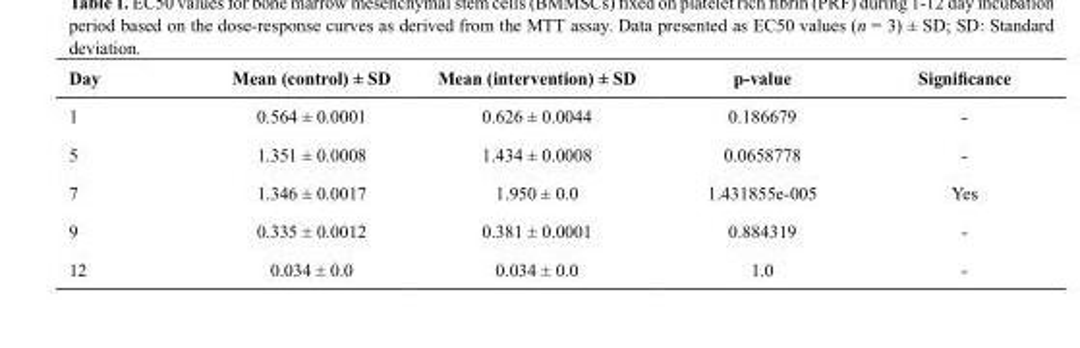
<table><tbody><tr><td>Day</td><td>Mean (control) ± SD</td><td>Mean (intervention) ± SD</td><td>p-value</td><td>Significance</td></tr><tr><td>1</td><td>0.564 ± 0.0001</td><td>0.626 ± 0.0044</td><td>0.186679</td><td>-</td></tr><tr><td>5</td><td>1.351 ± 0.0008</td><td>1.434 ± 0.0008</td><td>0.0658778</td><td>-</td></tr><tr><td>7</td><td>1.346 ± 0.0017</td><td>1.950 ± 0.0</td><td>1.431855e-005</td><td>Yes</td></tr><tr><td>9</td><td>0.335 ± 0.0012</td><td>0.381 ± 0.0001</td><td>0.884319</td><td>-</td></tr><tr><td>12</td><td>0.034 ± 0.0</td><td>0.034 ± 0.0</td><td>1.0</td><td>-</td></tr></tbody></table>